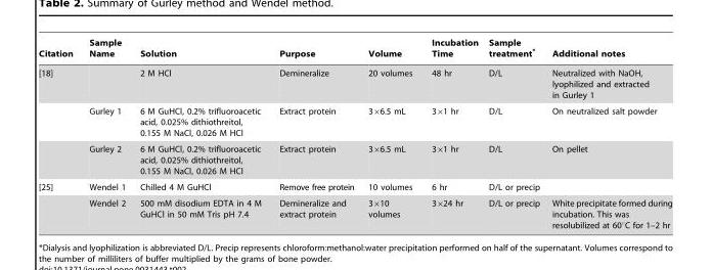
<table><thead><tr><td>Citation</td><td>Sample Name</td><td>Solution</td><td>Purpose</td><td>Volume</td><td>Incubation Time</td><td>Sample treatment*</td><td>Additional notes</td></tr></thead><tbody><tr><td rowspan="3">[18]</td><td></td><td>2 M HCl</td><td>Demineralize</td><td>20 volumes</td><td>48 hr</td><td>D/L</td><td>Neutralized with NaOH, lyophilized and extracted in Gurley 1</td></tr><tr><td>Gurley 1</td><td>6 M GuHCl, 0.2% trifluoroacetic acid, 0.025% dithiothreitol, 0.155 M NaCl, 0.026 M HCl</td><td>Extract protein</td><td>3×6.5 mL</td><td>3×1 hr</td><td>D/L</td><td>On neutralized salt powder</td></tr><tr><td>Gurley 2</td><td>6 M GuHCl, 0.2% trifluoroacetic acid, 0.025% dithiothreitol, 0.155 M NaCl, 0.026 M HCl</td><td>Extract protein</td><td>3×6.5 mL</td><td>3×1 hr</td><td>D/L</td><td>On pellet</td></tr><tr><td rowspan="2">[25]</td><td>Wendel 1</td><td>Chilled 4 M GuHCl</td><td>Remove free protein</td><td>10 volumes</td><td>6 hr</td><td>D/L or precip</td><td></td></tr><tr><td>Wendel 2</td><td>500 mM disodium EDTA in 4 M GuHCl in 50 mM Tris pH 7.4</td><td>Demineralize and extract protein</td><td>3×10 volumes</td><td>3×24 hr</td><td>D/L or precip</td><td>White precipitate formed during incubation. This was resolubilized at 60°C for 1–2 hr</td></tr></tbody></table>